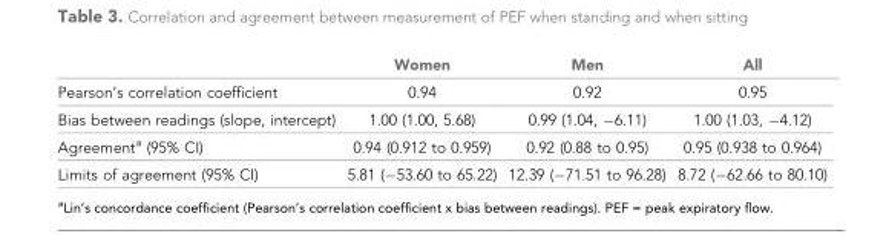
<table><thead><tr><td></td><td>Women</td><td>Men</td><td>All</td></tr></thead><tbody><tr><td>Pearson’s correlation coefficient</td><td>0.94</td><td>0.92</td><td>0.95</td></tr><tr><td>Bias between readings (slope, intercept)</td><td>1.00 (1.00, 5.68)</td><td>0.99 (1.04, −6.11)</td><td>1.00 (1.03, −4.12)</td></tr><tr><td>Agreement<sup>a</sup> (95% CI)</td><td>0.94 (0.912 to 0.959)</td><td>0.92 (0.88 to 0.95)</td><td>0.95 (0.938 to 0.964)</td></tr><tr><td>Limits of agreement (95% CI)</td><td>5.81 (−53.60 to 65.22)</td><td>12.39 (−71.51 to 96.28)</td><td>8.72 (−62.66 to 80.10)</td></tr></tbody></table>